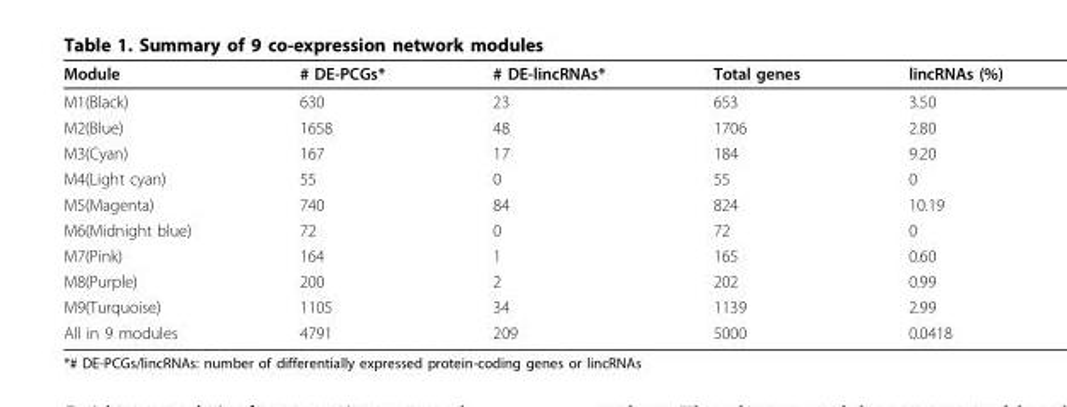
<table><thead><tr><td>Module</td><td># DE-PCGs*</td><td># DE-lincRNAs*</td><td>Total genes</td><td>lincRNAs (%)</td></tr></thead><tbody><tr><td>M1(Black)</td><td>630</td><td>23</td><td>653</td><td>3.50</td></tr><tr><td>M2(Blue)</td><td>1658</td><td>48</td><td>1706</td><td>2.80</td></tr><tr><td>M3(Cyan)</td><td>167</td><td>17</td><td>184</td><td>9.20</td></tr><tr><td>M4(Light cyan)</td><td>55</td><td>0</td><td>55</td><td>0</td></tr><tr><td>M5(Magenta)</td><td>740</td><td>84</td><td>824</td><td>10.19</td></tr><tr><td>M6(Midnight blue)</td><td>72</td><td>0</td><td>72</td><td>0</td></tr><tr><td>M7(Pink)</td><td>164</td><td>1</td><td>165</td><td>0.60</td></tr><tr><td>M8(Purple)</td><td>200</td><td>2</td><td>202</td><td>0.99</td></tr><tr><td>M9(Turquoise)</td><td>1105</td><td>34</td><td>1139</td><td>2.99</td></tr><tr><td>All in 9 modules</td><td>4791</td><td>209</td><td>5000</td><td>0.0418</td></tr></tbody></table>